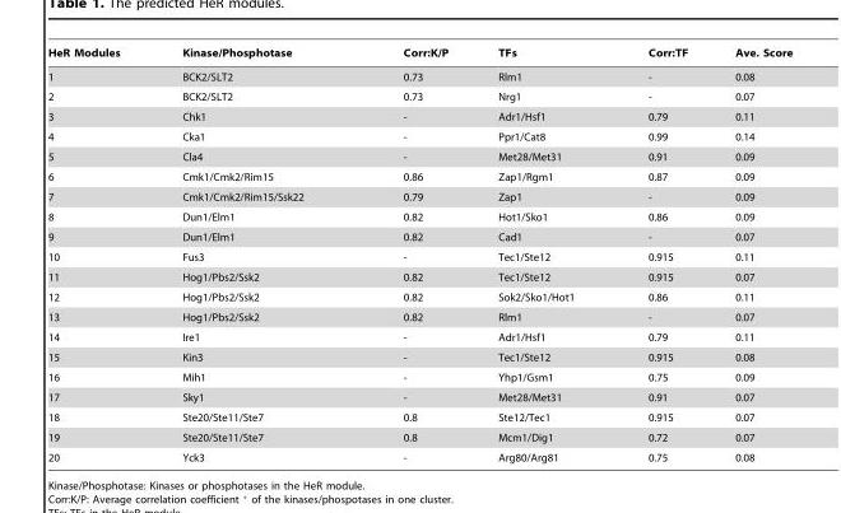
<table><thead><tr><td>HeR Modules</td><td>Kinase/Phosphotase</td><td>Corr:K/P</td><td>TFs</td><td>Corr:TF</td><td>Ave. Score</td></tr></thead><tbody><tr><td>1</td><td>BCK2/SLT2</td><td>0.73</td><td>Rlm1</td><td>-</td><td>0.08</td></tr><tr><td>2</td><td>BCK2/SLT2</td><td>0.73</td><td>Nrg1</td><td>-</td><td>0.07</td></tr><tr><td>3</td><td>Chk1</td><td>-</td><td>Adr1/Hsf1</td><td>0.79</td><td>0.11</td></tr><tr><td>4</td><td>Cka1</td><td>-</td><td>Ppr1/Cat8</td><td>0.99</td><td>0.14</td></tr><tr><td>5</td><td>Cla4</td><td>-</td><td>Met28/Met31</td><td>0.91</td><td>0.09</td></tr><tr><td>6</td><td>Cmk1/Cmk2/Rim15</td><td>0.86</td><td>Zap1/Rgm1</td><td>0.87</td><td>0.09</td></tr><tr><td>7</td><td>Cmk1/Cmk2/Rim15/Ssk22</td><td>0.79</td><td>Zap1</td><td>-</td><td>0.09</td></tr><tr><td>8</td><td>Dun1/Elm1</td><td>0.82</td><td>Hot1/Sko1</td><td>0.86</td><td>0.09</td></tr><tr><td>9</td><td>Dun1/Elm1</td><td>0.82</td><td>Cad1</td><td>-</td><td>0.07</td></tr><tr><td>10</td><td>Fus3</td><td>-</td><td>Tec1/Ste12</td><td>0.915</td><td>0.11</td></tr><tr><td>11</td><td>Hog1/Pbs2/Ssk2</td><td>0.82</td><td>Tec1/Ste12</td><td>0.915</td><td>0.07</td></tr><tr><td>12</td><td>Hog1/Pbs2/Ssk2</td><td>0.82</td><td>Sok2/Sko1/Hot1</td><td>0.86</td><td>0.11</td></tr><tr><td>13</td><td>Hog1/Pbs2/Ssk2</td><td>0.82</td><td>Rlm1</td><td>-</td><td>0.07</td></tr><tr><td>14</td><td>Ire1</td><td>-</td><td>Adr1/Hsf1</td><td>0.79</td><td>0.11</td></tr><tr><td>15</td><td>Kin3</td><td>-</td><td>Tec1/Ste12</td><td>0.915</td><td>0.08</td></tr><tr><td>16</td><td>Mih1</td><td>-</td><td>Yhp1/Gsm1</td><td>0.75</td><td>0.09</td></tr><tr><td>17</td><td>Sky1</td><td>-</td><td>Met28/Met31</td><td>0.91</td><td>0.07</td></tr><tr><td>18</td><td>Ste20/Ste11/Ste7</td><td>0.8</td><td>Ste12/Tec1</td><td>0.915</td><td>0.07</td></tr><tr><td>19</td><td>Ste20/Ste11/Ste7</td><td>0.8</td><td>Mcm1/Dig1</td><td>0.72</td><td>0.07</td></tr><tr><td>20</td><td>Yck3</td><td>-</td><td>Arg80/Arg81</td><td>0.75</td><td>0.08</td></tr></tbody></table>